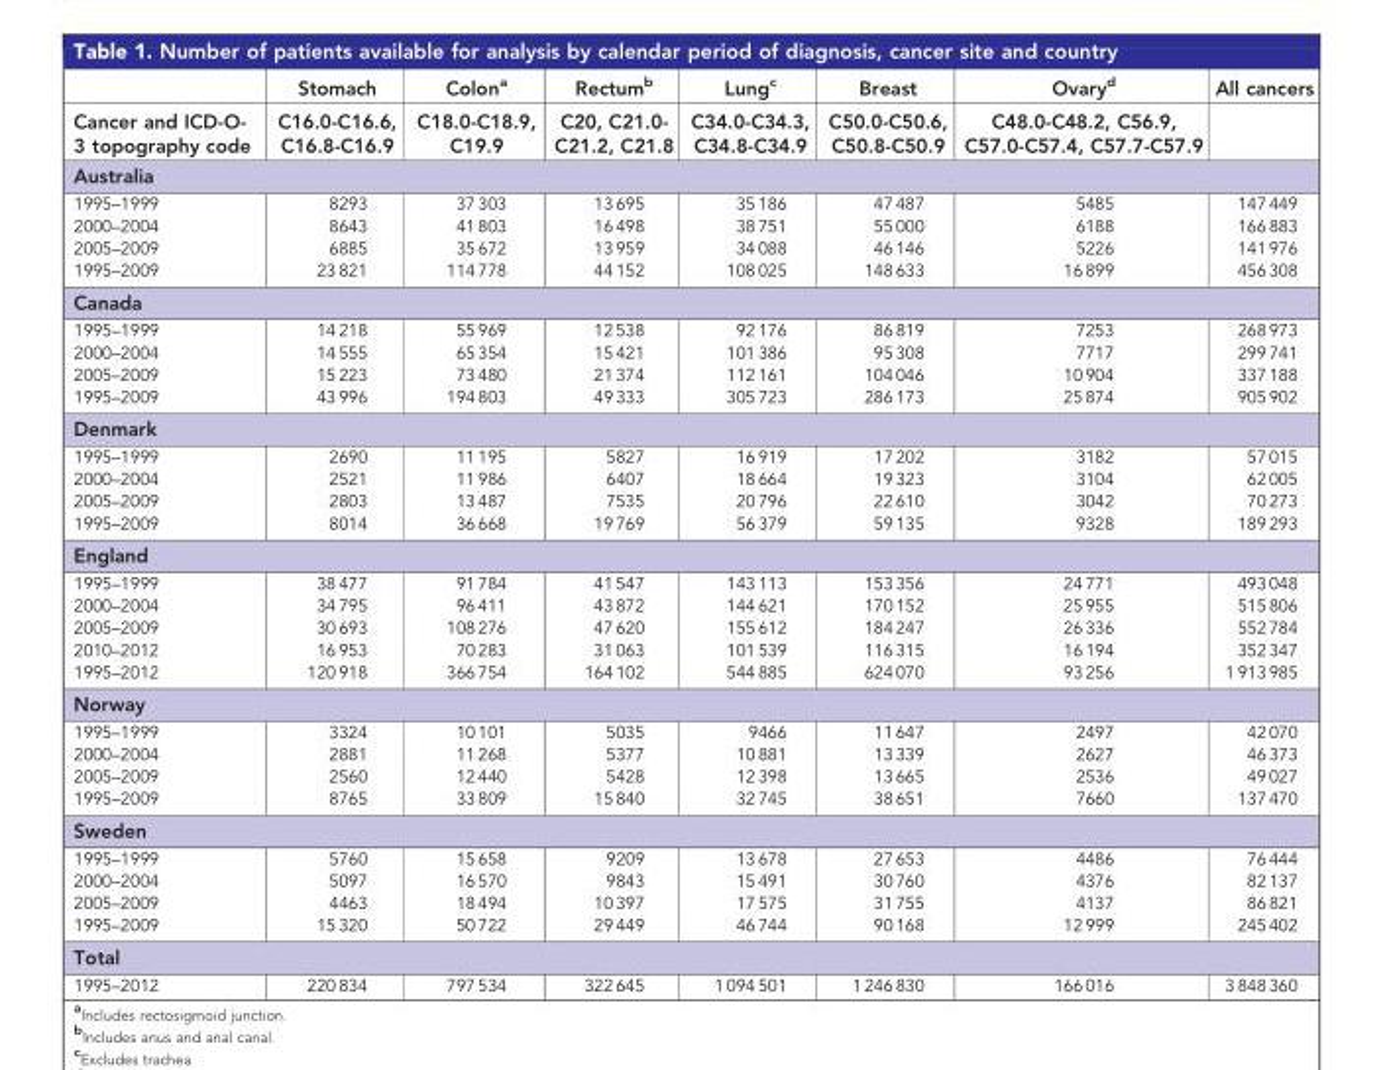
<table><thead><tr><td rowspan="2">Cancer and ICD-O- 3 topography code</td><td rowspan="2">Stomach C16.0-C16.6, C16.8-C16.9</td><td rowspan="2">Colon<sup>a</sup> C18.0-C18.9, C19.9</td><td rowspan="2">Rectum<sup>b</sup> C20, C21.0- C21.2, C21.8</td><td rowspan="2">Lung<sup>c</sup> C34.0-C34.3, C34.8-C34.9</td><td rowspan="2">Breast C50.0-C50.6, C50.8-C50.9</td><td rowspan="2">Ovary<sup>d</sup> C48.0-C48.2, C56.9, C57.0-C57.4, C57.7-C57.9</td><td rowspan="2">All cancers</td></tr><tr></tr></thead><tbody><tr><td colspan="8">Australia</td></tr><tr><td>1995–1999</td><td>8293</td><td>37 303</td><td>13 695</td><td>35 186</td><td>47 487</td><td>5485</td><td>147 449</td></tr><tr><td>2000–2004</td><td>8643</td><td>41 803</td><td>16 498</td><td>38 751</td><td>55 000</td><td>6188</td><td>166 883</td></tr><tr><td>2005–2009</td><td>6885</td><td>35 672</td><td>13 959</td><td>34 088</td><td>46 146</td><td>5226</td><td>141 976</td></tr><tr><td>1995–2009</td><td>23 821</td><td>114 778</td><td>44 152</td><td>108 025</td><td>148 633</td><td>16 899</td><td>456 308</td></tr><tr><td colspan="8">Canada</td></tr><tr><td>1995–1999</td><td>14 218</td><td>55 969</td><td>12 538</td><td>92 176</td><td>86 819</td><td>7253</td><td>268 973</td></tr><tr><td>2000–2004</td><td>14 555</td><td>65 354</td><td>15 421</td><td>101 386</td><td>95 308</td><td>7717</td><td>299 741</td></tr><tr><td>2005–2009</td><td>15 223</td><td>73 480</td><td>21 374</td><td>112 161</td><td>104 046</td><td>10 904</td><td>337 188</td></tr><tr><td>1995–2009</td><td>43 996</td><td>194 803</td><td>49 333</td><td>305 723</td><td>286 173</td><td>25 874</td><td>905 902</td></tr><tr><td colspan="8">Denmark</td></tr><tr><td>1995–1999</td><td>2690</td><td>11 195</td><td>5827</td><td>16 919</td><td>17 202</td><td>3182</td><td>57 015</td></tr><tr><td>2000–2004</td><td>2521</td><td>11 986</td><td>6407</td><td>18 664</td><td>19 323</td><td>3104</td><td>62 005</td></tr><tr><td>2005–2009</td><td>2803</td><td>13 487</td><td>7535</td><td>20 796</td><td>22 610</td><td>3042</td><td>70 273</td></tr><tr><td>1995–2009</td><td>8014</td><td>36 668</td><td>19 769</td><td>56 379</td><td>59 135</td><td>9328</td><td>189 293</td></tr><tr><td colspan="8">England</td></tr><tr><td>1995–1999</td><td>38 477</td><td>91 784</td><td>41 547</td><td>143 113</td><td>153 356</td><td>24 771</td><td>493 048</td></tr><tr><td>2000–2004</td><td>34 795</td><td>96 411</td><td>43 872</td><td>144 621</td><td>170 152</td><td>25 955</td><td>515 806</td></tr><tr><td>2005–2009</td><td>30 693</td><td>108 276</td><td>47 620</td><td>155 612</td><td>184 247</td><td>26 336</td><td>552 784</td></tr><tr><td>2010–2012</td><td>16 953</td><td>70 283</td><td>31 063</td><td>101 539</td><td>116 315</td><td>16 194</td><td>352 347</td></tr><tr><td>1995–2012</td><td>120 918</td><td>366 754</td><td>164 102</td><td>544 885</td><td>624 070</td><td>93 256</td><td>1 913 985</td></tr><tr><td colspan="8">Norway</td></tr><tr><td>1995–1999</td><td>3324</td><td>10 101</td><td>5035</td><td>9466</td><td>11 647</td><td>2497</td><td>42 070</td></tr><tr><td>2000–2004</td><td>2881</td><td>11 268</td><td>5377</td><td>10 881</td><td>13 339</td><td>2627</td><td>46 373</td></tr><tr><td>2005–2009</td><td>2560</td><td>12 440</td><td>5428</td><td>12 398</td><td>13 665</td><td>2536</td><td>49 027</td></tr><tr><td>1995–2009</td><td>8765</td><td>33 809</td><td>15 840</td><td>32 745</td><td>38 651</td><td>7660</td><td>137 470</td></tr><tr><td colspan="8">Sweden</td></tr><tr><td>1995–1999</td><td>5760</td><td>15 658</td><td>9209</td><td>13 678</td><td>27 653</td><td>4486</td><td>76 444</td></tr><tr><td>2000–2004</td><td>5097</td><td>16 570</td><td>9843</td><td>15 491</td><td>30 760</td><td>4376</td><td>82 137</td></tr><tr><td>2005–2009</td><td>4463</td><td>18 494</td><td>10 397</td><td>17 575</td><td>31 755</td><td>4137</td><td>86 821</td></tr><tr><td>1995–2009</td><td>15 320</td><td>50 722</td><td>29 449</td><td>46 744</td><td>90 168</td><td>12 999</td><td>245 402</td></tr><tr><td colspan="8">Total</td></tr><tr><td>1995–2012</td><td>220 834</td><td>797 534</td><td>322 645</td><td>1 094 501</td><td>1 246 830</td><td>166 016</td><td>3 848 360</td></tr></tbody></table>